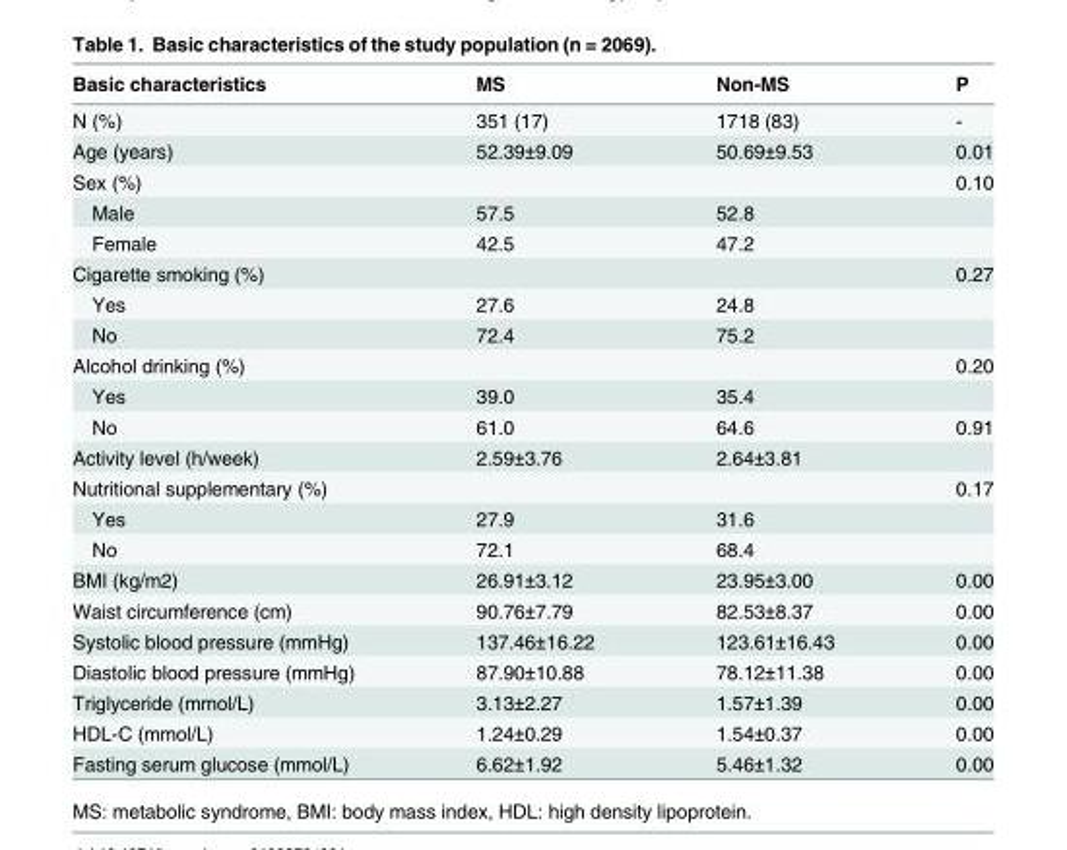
<table><thead><tr><td>Basic characteristics</td><td>MS</td><td>Non-MS</td><td>P</td></tr></thead><tbody><tr><td>N (%)</td><td>351 (17)</td><td>1718 (83)</td><td>-</td></tr><tr><td>Age (years)</td><td>52.39±9.09</td><td>50.69±9.53</td><td>0.01</td></tr><tr><td>Sex (%)</td><td></td><td></td><td>0.10</td></tr><tr><td>Male</td><td>57.5</td><td>52.8</td><td></td></tr><tr><td>Female</td><td>42.5</td><td>47.2</td><td></td></tr><tr><td>Cigarette smoking (%)</td><td></td><td></td><td>0.27</td></tr><tr><td>Yes</td><td>27.6</td><td>24.8</td><td></td></tr><tr><td>No</td><td>72.4</td><td>75.2</td><td></td></tr><tr><td>Alcohol drinking (%)</td><td></td><td></td><td>0.20</td></tr><tr><td>Yes</td><td>39.0</td><td>35.4</td><td></td></tr><tr><td>No</td><td>61.0</td><td>64.6</td><td>0.91</td></tr><tr><td>Activity level (h/week)</td><td>2.59±3.76</td><td>2.64±3.81</td><td></td></tr><tr><td>Nutritional supplementary (%)</td><td></td><td></td><td>0.17</td></tr><tr><td>Yes</td><td>27.9</td><td>31.6</td><td></td></tr><tr><td>No</td><td>72.1</td><td>68.4</td><td></td></tr><tr><td>BMI (kg/m2)</td><td>26.91±3.12</td><td>23.95±3.00</td><td>0.00</td></tr><tr><td>Waist circumference (cm)</td><td>90.76±7.79</td><td>82.53±8.37</td><td>0.00</td></tr><tr><td>Systolic blood pressure (mmHg)</td><td>137.46±16.22</td><td>123.61±16.43</td><td>0.00</td></tr><tr><td>Diastolic blood pressure (mmHg)</td><td>87.90±10.88</td><td>78.12±11.38</td><td>0.00</td></tr><tr><td>Triglyceride (mmol/L)</td><td>3.13±2.27</td><td>1.57±1.39</td><td>0.00</td></tr><tr><td>HDL-C (mmol/L)</td><td>1.24±0.29</td><td>1.54±0.37</td><td>0.00</td></tr><tr><td>Fasting serum glucose (mmol/L)</td><td>6.62±1.92</td><td>5.46±1.32</td><td>0.00</td></tr></tbody></table>